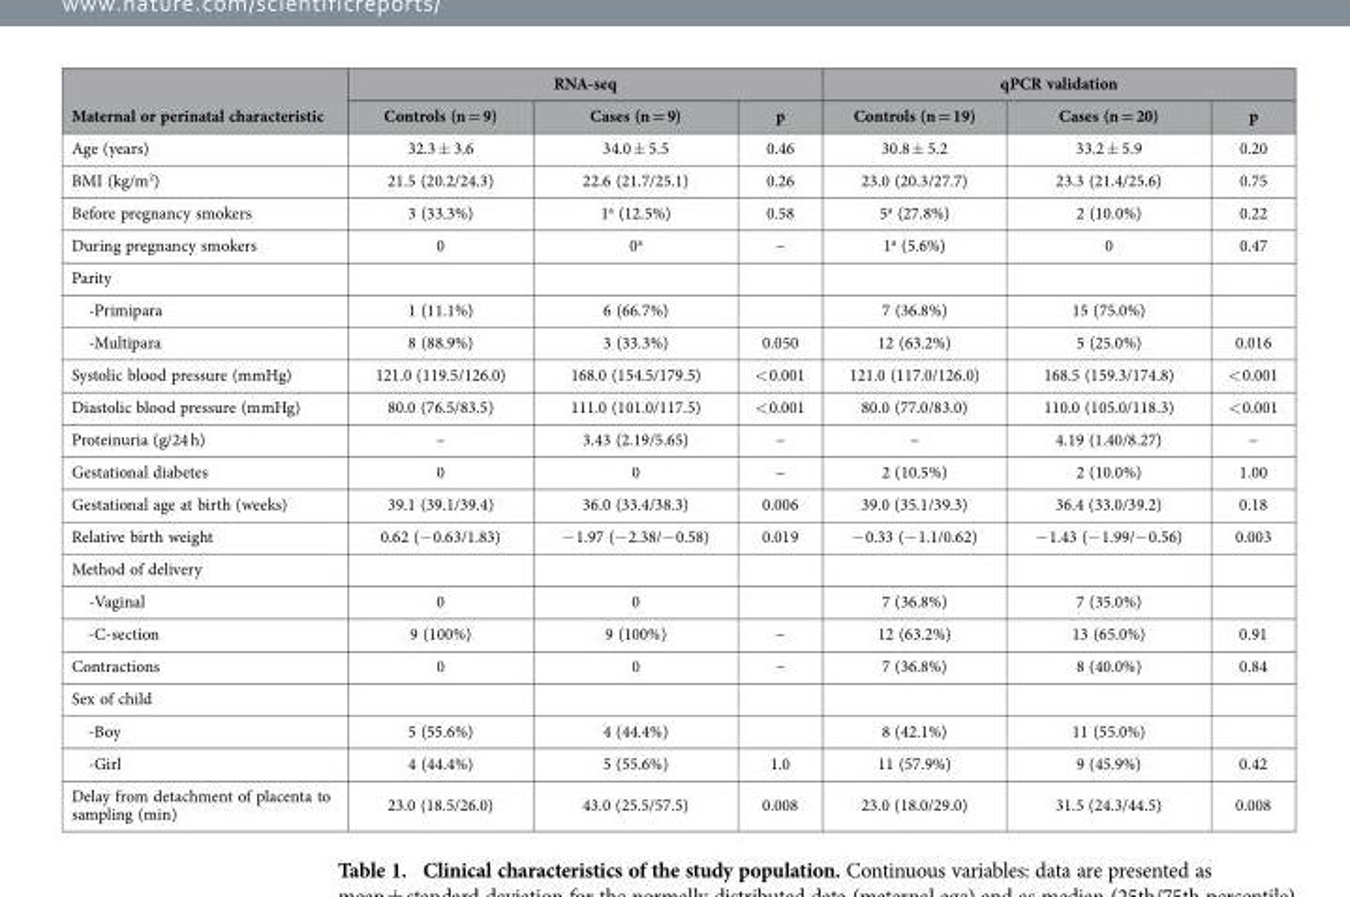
<table><thead><tr><td rowspan="2">Maternal or perinatal characteristic</td><td colspan="3">RNA-seq</td><td colspan="3">qPCR validation</td></tr><tr><td>Controls (n = 9)</td><td>Cases (n = 9)</td><td>p</td><td>Controls (n = 19)</td><td>Cases (n = 20)</td><td>p</td></tr></thead><tbody><tr><td>Age (years)</td><td>32.3 ± 3.6</td><td>34.0 ± 5.5</td><td>0.46</td><td>30.8 ± 5.2</td><td>33.2 ± 5.9</td><td>0.20</td></tr><tr><td>BMI (kg/m<sup>2</sup>)</td><td>21.5 (20.2/24.3)</td><td>22.6 (21.7/25.1)</td><td>0.26</td><td>23.0 (20.3/27.7)</td><td>23.3 (21.4/25.6)</td><td>0.75</td></tr><tr><td>Before pregnancy smokers</td><td>3 (33.3%)</td><td>1<sup>a</sup> (12.5%)</td><td>0.58</td><td>5<sup>a</sup> (27.8%)</td><td>2 (10.0%)</td><td>0.22</td></tr><tr><td>During pregnancy smokers</td><td>0</td><td>0<sup>a</sup></td><td>−</td><td>1<sup>a</sup> (5.6%)</td><td>0</td><td>0.47</td></tr><tr><td colspan="7">Parity</td></tr><tr><td>-Primipara</td><td>1 (11.1%)</td><td>6 (66.7%)</td><td></td><td>7 (36.8%)</td><td>15 (75.0%)</td><td></td></tr><tr><td>-Multipara</td><td>8 (88.9%)</td><td>3 (33.3%)</td><td>0.050</td><td>12 (63.2%)</td><td>5 (25.0%)</td><td>0.016</td></tr><tr><td>Systolic blood pressure (mmHg)</td><td>121.0 (119.5/126.0)</td><td>168.0 (154.5/179.5)</td><td>&lt; 0.001</td><td>121.0 (117.0/126.0)</td><td>168.5 (159.3/174.8)</td><td>&lt; 0.001</td></tr><tr><td>Diastolic blood pressure (mmHg)</td><td>80.0 (76.5/83.5)</td><td>111.0 (101.0/117.5)</td><td>&lt; 0.001</td><td>80.0 (77.0/83.0)</td><td>110.0 (105.0/118.3)</td><td>&lt; 0.001</td></tr><tr><td>Proteinuria (g/24 h)</td><td>−</td><td>3.43 (2.19/5.65)</td><td>−</td><td>−</td><td>4.19 (1.40/8.27)</td><td>−</td></tr><tr><td>Gestational diabetes</td><td>0</td><td>0</td><td>−</td><td>2 (10.5%)</td><td>2 (10.0%)</td><td>1.00</td></tr><tr><td>Gestational age at birth (weeks)</td><td>39.1 (39.1/39.4)</td><td>36.0 (33.4/38.3)</td><td>0.006</td><td>39.0 (35.1/39.3)</td><td>36.4 (33.0/39.2)</td><td>0.18</td></tr><tr><td>Relative birth weight</td><td>0.62 (− 0.63/1.83)</td><td>− 1.97 (− 2.38/− 0.58)</td><td>0.019</td><td>− 0.33 (− 1.1/0.62)</td><td>− 1.43 (− 1.99/− 0.56)</td><td>0.003</td></tr><tr><td colspan="7">Method of delivery</td></tr><tr><td>-Vaginal</td><td>0</td><td>0</td><td></td><td>7 (36.8%)</td><td>7 (35.0%)</td><td></td></tr><tr><td>-C-section</td><td>9 (100%)</td><td>9 (100%)</td><td>−</td><td>12 (63.2%)</td><td>13 (65.0%)</td><td>0.91</td></tr><tr><td>Contractions</td><td>0</td><td>0</td><td>−</td><td>7 (36.8%)</td><td>8 (40.0%)</td><td>0.84</td></tr><tr><td colspan="7">Sex of child</td></tr><tr><td>-Boy</td><td>5 (55.6%)</td><td>4 (44.4%)</td><td></td><td>8 (42.1%)</td><td>11 (55.0%)</td><td></td></tr><tr><td>-Girl</td><td>4 (44.4%)</td><td>5 (55.6%)</td><td>1.0</td><td>11 (57.9%)</td><td>9 (45.9%)</td><td>0.42</td></tr><tr><td>Delay from detachment of placenta to sampling (min)</td><td>23.0 (18.5/26.0)</td><td>43.0 (25.5/57.5)</td><td>0.008</td><td>23.0 (18.0/29.0)</td><td>31.5 (24.3/44.5)</td><td>0.008</td></tr></tbody></table>